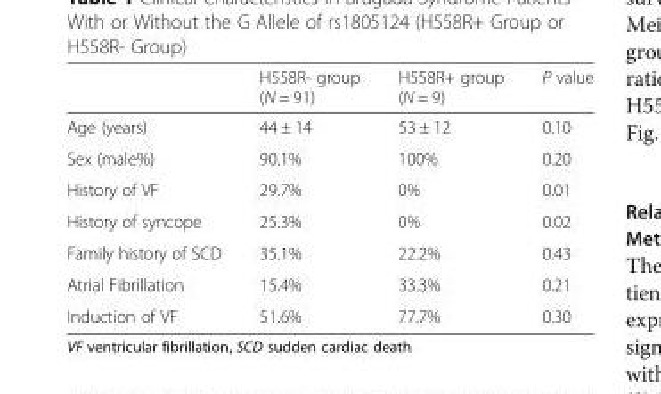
<table><thead><tr><td></td><td>H558R- group (N = 91)</td><td>H558R+ group (N = 9)</td><td>P value</td></tr></thead><tbody><tr><td>Age (years)</td><td>44 ± 14</td><td>53 ± 12</td><td>0.10</td></tr><tr><td>Sex (male%)</td><td>90.1%</td><td>100%</td><td>0.20</td></tr><tr><td>History of VF</td><td>29.7%</td><td>0%</td><td>0.01</td></tr><tr><td>History of syncope</td><td>25.3%</td><td>0%</td><td>0.02</td></tr><tr><td>Family history of SCD</td><td>35.1%</td><td>22.2%</td><td>0.43</td></tr><tr><td>Atrial Fibrillation</td><td>15.4%</td><td>33.3%</td><td>0.21</td></tr><tr><td>Induction of VF</td><td>51.6%</td><td>77.7%</td><td>0.30</td></tr></tbody></table>